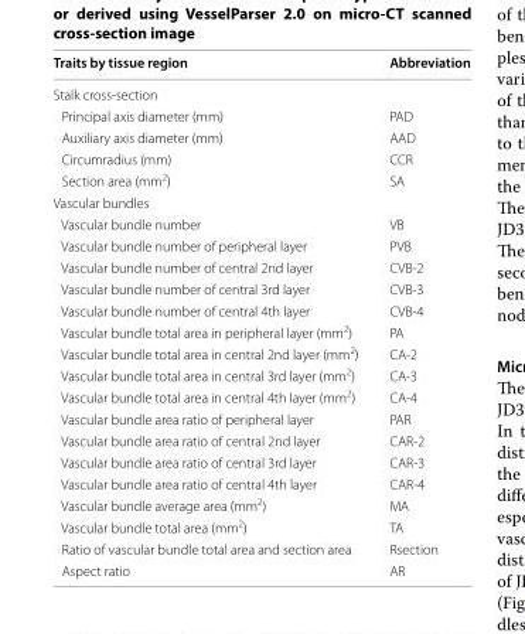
<table><thead><tr><td>Traits by tissue region</td><td>Abbreviation</td></tr></thead><tbody><tr><td colspan="2">Stalk cross-section</td></tr><tr><td>Principal axis diameter (mm)</td><td>PAD</td></tr><tr><td>Auxiliary axis diameter (mm)</td><td>AAD</td></tr><tr><td>Circumradius (mm)</td><td>CCR</td></tr><tr><td>Section area (mm<sup>2</sup>)</td><td>SA</td></tr><tr><td colspan="2">Vascular bundles</td></tr><tr><td>Vascular bundle number</td><td>VB</td></tr><tr><td>Vascular bundle number of peripheral layer</td><td>PVB</td></tr><tr><td>Vascular bundle number of central 2nd layer</td><td>CVB-2</td></tr><tr><td>Vascular bundle number of central 3rd layer</td><td>CVB-3</td></tr><tr><td>Vascular bundle number of central 4th layer</td><td>CVB-4</td></tr><tr><td>Vascular bundle total area in peripheral layer (mm<sup>2</sup>)</td><td>PA</td></tr><tr><td>Vascular bundle total area in central 2nd layer (mm<sup>2</sup>)</td><td>CA-2</td></tr><tr><td>Vascular bundle total area in central 3rd layer (mm<sup>2</sup>)</td><td>CA-3</td></tr><tr><td>Vascular bundle total area in central 4th layer (mm<sup>2</sup>)</td><td>CA-4</td></tr><tr><td>Vascular bundle area ratio of peripheral layer</td><td>PAR</td></tr><tr><td>Vascular bundle area ratio of central 2nd layer</td><td>CAR-2</td></tr><tr><td>Vascular bundle area ratio of central 3rd layer</td><td>CAR-3</td></tr><tr><td>Vascular bundle area ratio of central 4th layer</td><td>CAR-4</td></tr><tr><td>Vascular bundle average area (mm<sup>2</sup>)</td><td>MA</td></tr><tr><td>Vascular bundle total area (mm<sup>2</sup>)</td><td>TA</td></tr><tr><td>Ratio of vascular bundle total area and section area</td><td>Rsection</td></tr><tr><td>Aspect ratio</td><td>AR</td></tr></tbody></table>